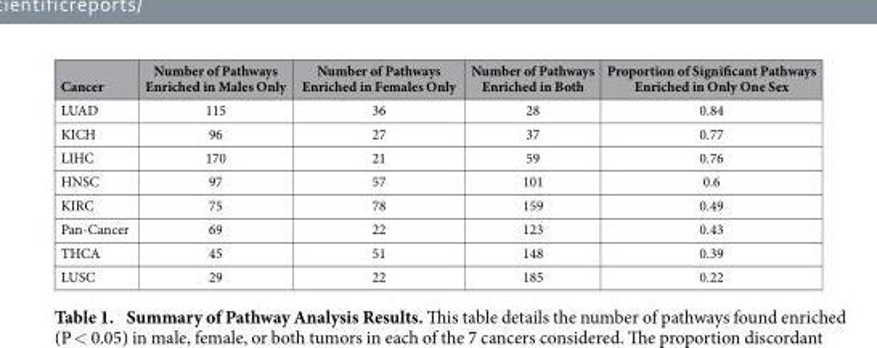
<table><thead><tr><td>Cancer</td><td>Number of Pathways Enriched in Males Only</td><td>Number of Pathways Enriched in Females Only</td><td>Number of Pathways Enriched in Both</td><td>Proportion of Significant Pathways Enriched in Only One Sex</td></tr></thead><tbody><tr><td>LUAD</td><td>115</td><td>36</td><td>28</td><td>0.84</td></tr><tr><td>KICH</td><td>96</td><td>27</td><td>37</td><td>0.77</td></tr><tr><td>LIHC</td><td>170</td><td>21</td><td>59</td><td>0.76</td></tr><tr><td>HNSC</td><td>97</td><td>57</td><td>101</td><td>0.6</td></tr><tr><td>KIRC</td><td>75</td><td>78</td><td>159</td><td>0.49</td></tr><tr><td>Pan-Cancer</td><td>69</td><td>22</td><td>123</td><td>0.43</td></tr><tr><td>THCA</td><td>45</td><td>51</td><td>148</td><td>0.39</td></tr><tr><td>LUSC</td><td>29</td><td>22</td><td>185</td><td>0.22</td></tr></tbody></table>